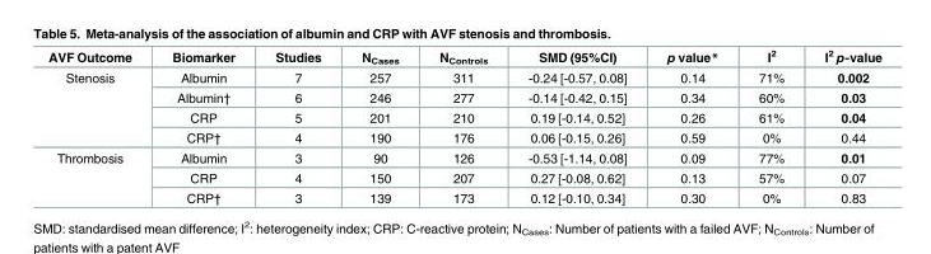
<table><thead><tr><td>AVF Outcome</td><td>Biomarker</td><td>Studies</td><td>N<sub>Cases</sub></td><td>N<sub>Controls</sub></td><td>SMD (95%CI)</td><td>p value*</td><td>I<sup>2</sup></td><td>I<sup>2</sup> p-value</td></tr></thead><tbody><tr><td rowspan="4">Stenosis</td><td>Albumin</td><td>7</td><td>257</td><td>311</td><td>-0.24 [-0.57, 0.08]</td><td>0.14</td><td>71%</td><td>0.002</td></tr><tr><td>Albumin†</td><td>6</td><td>246</td><td>277</td><td>-0.14 [-0.42, 0.15]</td><td>0.34</td><td>60%</td><td>0.03</td></tr><tr><td>CRP</td><td>5</td><td>201</td><td>210</td><td>0.19 [-0.14, 0.52]</td><td>0.26</td><td>61%</td><td>0.04</td></tr><tr><td>CRP†</td><td>4</td><td>190</td><td>176</td><td>0.06 [-0.15, 0.26]</td><td>0.59</td><td>0%</td><td>0.44</td></tr><tr><td rowspan="3">Thrombosis</td><td>Albumin</td><td>3</td><td>90</td><td>126</td><td>-0.53 [-1.14, 0.08]</td><td>0.09</td><td>77%</td><td>0.01</td></tr><tr><td>CRP</td><td>4</td><td>150</td><td>207</td><td>0.27 [-0.08, 0.62]</td><td>0.13</td><td>57%</td><td>0.07</td></tr><tr><td>CRP†</td><td>3</td><td>139</td><td>173</td><td>0.12 [-0.10, 0.34]</td><td>0.30</td><td>0%</td><td>0.83</td></tr></tbody></table>